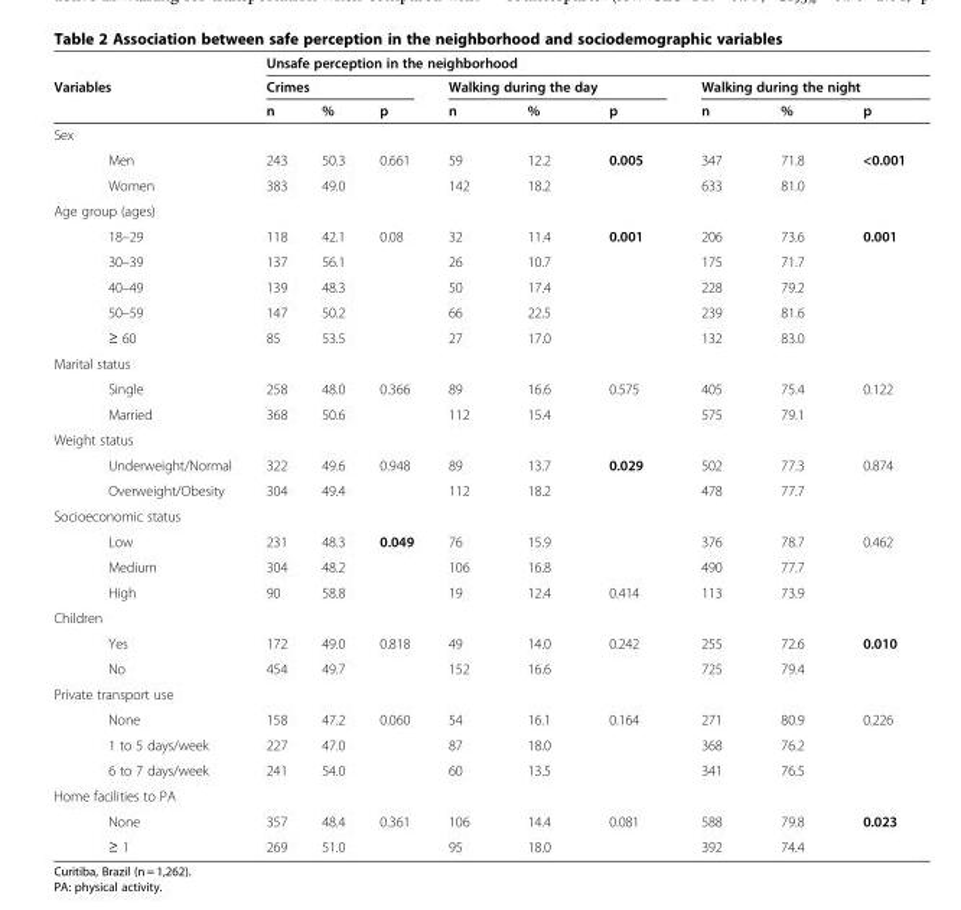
<table><thead><tr><td></td><td></td><td colspan="9">Unsafe perception in the neighborhood</td></tr><tr><td rowspan="2" colspan="2">Variables</td><td colspan="3">Crimes</td><td colspan="3">Walking during the day</td><td colspan="3">Walking during the night</td></tr><tr><td>n</td><td>%</td><td>p</td><td>n</td><td>%</td><td>p</td><td>n</td><td>%</td><td>p</td></tr></thead><tbody><tr><td colspan="11">Sex</td></tr><tr><td></td><td>Men</td><td>243</td><td>50.3</td><td>0.661</td><td>59</td><td>12.2</td><td>0.005</td><td>347</td><td>71.8</td><td>&lt;0.001</td></tr><tr><td></td><td>Women</td><td>383</td><td>49.0</td><td></td><td>142</td><td>18.2</td><td></td><td>633</td><td>81.0</td><td></td></tr><tr><td colspan="11">Age group (ages)</td></tr><tr><td></td><td>18–29</td><td>118</td><td>42.1</td><td>0.08</td><td>32</td><td>11.4</td><td>0.001</td><td>206</td><td>73.6</td><td>0.001</td></tr><tr><td></td><td>30–39</td><td>137</td><td>56.1</td><td></td><td>26</td><td>10.7</td><td></td><td>175</td><td>71.7</td><td></td></tr><tr><td></td><td>40–49</td><td>139</td><td>48.3</td><td></td><td>50</td><td>17.4</td><td></td><td>228</td><td>79.2</td><td></td></tr><tr><td></td><td>50–59</td><td>147</td><td>50.2</td><td></td><td>66</td><td>22.5</td><td></td><td>239</td><td>81.6</td><td></td></tr><tr><td></td><td>≥ 60</td><td>85</td><td>53.5</td><td></td><td>27</td><td>17.0</td><td></td><td>132</td><td>83.0</td><td></td></tr><tr><td colspan="11">Marital status</td></tr><tr><td></td><td>Single</td><td>258</td><td>48.0</td><td>0.366</td><td>89</td><td>16.6</td><td>0.575</td><td>405</td><td>75.4</td><td>0.122</td></tr><tr><td></td><td>Married</td><td>368</td><td>50.6</td><td></td><td>112</td><td>15.4</td><td></td><td>575</td><td>79.1</td><td></td></tr><tr><td colspan="11">Weight status</td></tr><tr><td></td><td>Underweight/Normal</td><td>322</td><td>49.6</td><td>0.948</td><td>89</td><td>13.7</td><td>0.029</td><td>502</td><td>77.3</td><td>0.874</td></tr><tr><td></td><td>Overweight/Obesity</td><td>304</td><td>49.4</td><td></td><td>112</td><td>18.2</td><td></td><td>478</td><td>77.7</td><td></td></tr><tr><td colspan="11">Socioeconomic status</td></tr><tr><td></td><td>Low</td><td>231</td><td>48.3</td><td>0.049</td><td>76</td><td>15.9</td><td></td><td>376</td><td>78.7</td><td>0.462</td></tr><tr><td></td><td>Medium</td><td>304</td><td>48.2</td><td></td><td>106</td><td>16.8</td><td></td><td>490</td><td>77.7</td><td></td></tr><tr><td></td><td>High</td><td>90</td><td>58.8</td><td></td><td>19</td><td>12.4</td><td>0.414</td><td>113</td><td>73.9</td><td></td></tr><tr><td colspan="11">Children</td></tr><tr><td></td><td>Yes</td><td>172</td><td>49.0</td><td>0.818</td><td>49</td><td>14.0</td><td>0.242</td><td>255</td><td>72.6</td><td>0.010</td></tr><tr><td></td><td>No</td><td>454</td><td>49.7</td><td></td><td>152</td><td>16.6</td><td></td><td>725</td><td>79.4</td><td></td></tr><tr><td colspan="11">Private transport use</td></tr><tr><td></td><td>None</td><td>158</td><td>47.2</td><td>0.060</td><td>54</td><td>16.1</td><td>0.164</td><td>271</td><td>80.9</td><td>0.226</td></tr><tr><td></td><td>1 to 5 days/week</td><td>227</td><td>47.0</td><td></td><td>87</td><td>18.0</td><td></td><td>368</td><td>76.2</td><td></td></tr><tr><td></td><td>6 to 7 days/week</td><td>241</td><td>54.0</td><td></td><td>60</td><td>13.5</td><td></td><td>341</td><td>76.5</td><td></td></tr><tr><td colspan="11">Home facilities to PA</td></tr><tr><td></td><td>None</td><td>357</td><td>48.4</td><td>0.361</td><td>106</td><td>14.4</td><td>0.081</td><td>588</td><td>79.8</td><td>0.023</td></tr><tr><td></td><td>≥ 1</td><td>269</td><td>51.0</td><td></td><td>95</td><td>18.0</td><td></td><td>392</td><td>74.4</td><td></td></tr></tbody></table>